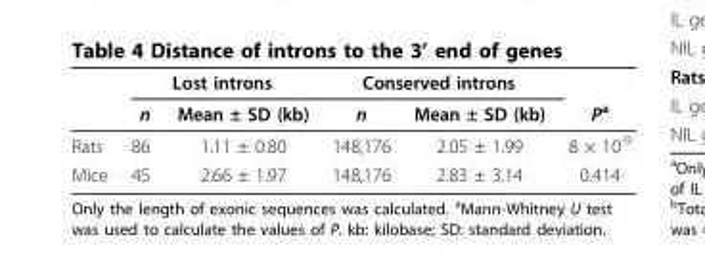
<table><thead><tr><td rowspan="2"></td><td colspan="2">Lost introns</td><td colspan="2">Conserved introns</td><td rowspan="2">P<sup>a</sup></td></tr><tr><td>n</td><td>Mean ± SD (kb)</td><td>n</td><td>Mean ± SD (kb)</td></tr></thead><tbody><tr><td>Rats</td><td>86</td><td>1.11 ± 0.80</td><td>148,176</td><td>2.05 ± 1.99</td><td>8 × 10<sup>-9</sup></td></tr><tr><td>Mice</td><td>45</td><td>2.66 ± 1.97</td><td>148,176</td><td>2.83 ± 3.14</td><td>0.414</td></tr></tbody></table>